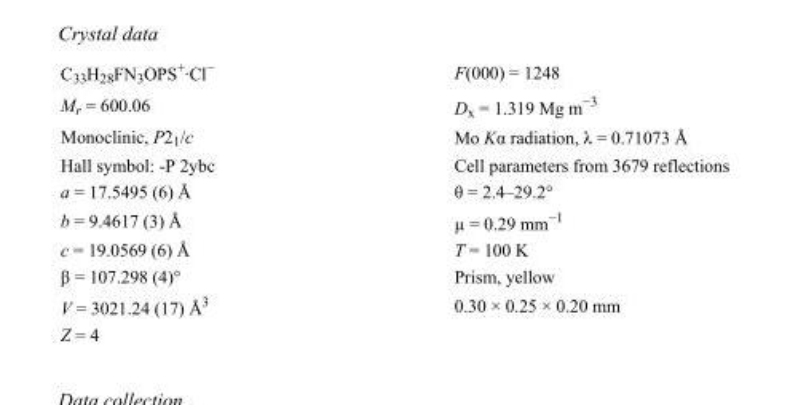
<table><tbody><tr><td>C<sub>33</sub>H<sub>28</sub>FN<sub>3</sub>OPS<sup>+</sup>·Cl<sup>−</sup></td><td>F(000) = 1248</td></tr><tr><td>M<sub>r</sub> = 600.06</td><td>D<sub>x</sub> = 1.319 Mg m<sup>−3</sup></td></tr><tr><td>Monoclinic, P2<sub>1</sub>/c</td><td>Mo Kα radiation, λ = 0.71073 Å</td></tr><tr><td>Hall symbol: -P 2ybc</td><td>Cell parameters from 3679 reflections</td></tr><tr><td>a = 17.5495 (6) Å</td><td>θ = 2.4–29.2°</td></tr><tr><td>b = 9.4617 (3) Å</td><td>µ = 0.29 mm<sup>−1</sup></td></tr><tr><td>c = 19.0569 (6) Å</td><td>T = 100 K</td></tr><tr><td>β = 107.298 (4)°</td><td>Prism, yellow</td></tr><tr><td>V = 3021.24 (17) Å<sup>3</sup></td><td>0.30 × 0.25 × 0.20 mm</td></tr><tr><td>Z = 4</td><td></td></tr></tbody></table>